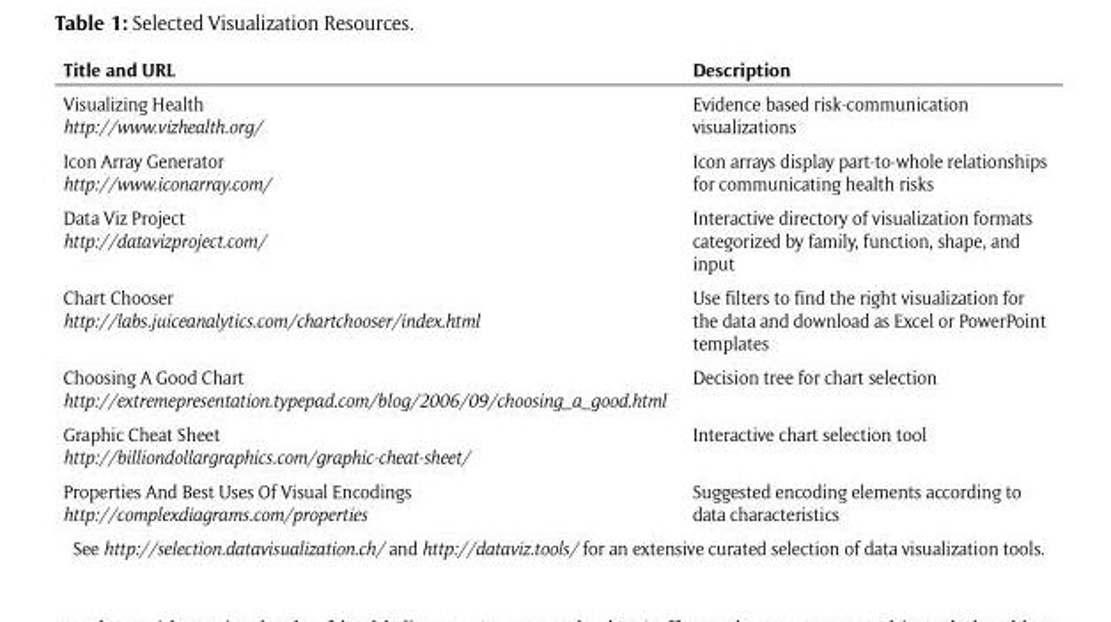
<table><thead><tr><td>Title and URL</td><td>Description</td></tr></thead><tbody><tr><td>Visualizing Health http://www.vizhealth.org/</td><td>Evidence based risk-communication visualizations</td></tr><tr><td>Icon Array Generator http://www.iconarray.com/</td><td>Icon arrays display part-to-whole relationships for communicating health risks</td></tr><tr><td>Data Viz Project http://datavizproject.com/</td><td>Interactive directory of visualization formats categorized by family, function, shape, and input</td></tr><tr><td>Chart Chooser http://labs.juiceanalytics.com/chartchooser/index.html</td><td>Use filters to find the right visualization for the data and download as Excel or PowerPoint templates</td></tr><tr><td>Choosing A Good Chart http://extremepresentation.typepad.com/blog/2006/09/choosing_a_good.html</td><td>Decision tree for chart selection</td></tr><tr><td>Graphic Cheat Sheet http://billiondollargraphics.com/graphic-cheat-sheet/</td><td>Interactive chart selection tool</td></tr><tr><td>Properties And Best Uses Of Visual Encodings http://complexdiagrams.com/properties</td><td>Suggested encoding elements according to data characteristics</td></tr><tr><td colspan="2">See http://selection.datavisualization.ch/ and http://dataviz.tools/ for an extensive curated selection of data visualization tools.</td></tr></tbody></table>